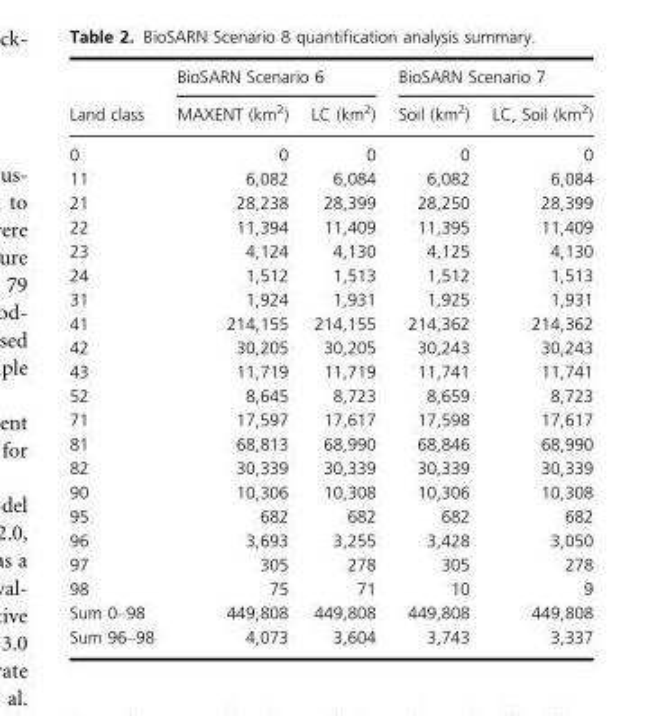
<table><thead><tr><td rowspan="2">Land class</td><td colspan="2">BioSARN Scenario 6</td><td colspan="2">BioSARN Scenario 7</td></tr><tr><td>MAXENT (km<sup>2</sup>)</td><td>LC (km<sup>2</sup>)</td><td>Soil (km<sup>2</sup>)</td><td>LC, Soil (km<sup>2</sup>)</td></tr></thead><tbody><tr><td>0</td><td>0</td><td>0</td><td>0</td><td>0</td></tr><tr><td>11</td><td>6,082</td><td>6,084</td><td>6,082</td><td>6,084</td></tr><tr><td>21</td><td>28,238</td><td>28,399</td><td>28,250</td><td>28,399</td></tr><tr><td>22</td><td>11,394</td><td>11,409</td><td>11,395</td><td>11,409</td></tr><tr><td>23</td><td>4,124</td><td>4,130</td><td>4,125</td><td>4,130</td></tr><tr><td>24</td><td>1,512</td><td>1,513</td><td>1,512</td><td>1,513</td></tr><tr><td>31</td><td>1,924</td><td>1,931</td><td>1,925</td><td>1,931</td></tr><tr><td>41</td><td>214,155</td><td>214,155</td><td>214,362</td><td>214,362</td></tr><tr><td>42</td><td>30,205</td><td>30,205</td><td>30,243</td><td>30,243</td></tr><tr><td>43</td><td>11,719</td><td>11,719</td><td>11,741</td><td>11,741</td></tr><tr><td>52</td><td>8,645</td><td>8,723</td><td>8,659</td><td>8,723</td></tr><tr><td>71</td><td>17,597</td><td>17,617</td><td>17,598</td><td>17,617</td></tr><tr><td>81</td><td>68,813</td><td>68,990</td><td>68,846</td><td>68,990</td></tr><tr><td>82</td><td>30,339</td><td>30,339</td><td>30,339</td><td>30,339</td></tr><tr><td>90</td><td>10,306</td><td>10,308</td><td>10,306</td><td>10,308</td></tr><tr><td>95</td><td>682</td><td>682</td><td>682</td><td>682</td></tr><tr><td>96</td><td>3,693</td><td>3,255</td><td>3,428</td><td>3,050</td></tr><tr><td>97</td><td>305</td><td>278</td><td>305</td><td>278</td></tr><tr><td>98</td><td>75</td><td>71</td><td>10</td><td>9</td></tr><tr><td>Sum 0–98</td><td>449,808</td><td>449,808</td><td>449,808</td><td>449,808</td></tr><tr><td>Sum 96–98</td><td>4,073</td><td>3,604</td><td>3,743</td><td>3,337</td></tr></tbody></table>